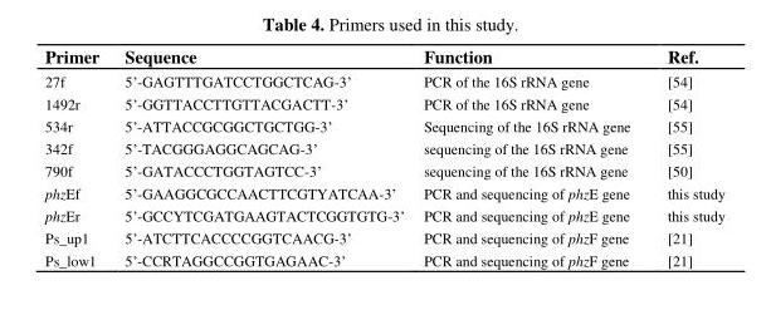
<table><thead><tr><td>Primer</td><td>Sequence</td><td>Function</td><td>Ref.</td></tr></thead><tbody><tr><td>27f</td><td>5‘-GAGTTTGATCCTGGCTCAG-3‘</td><td>PCR of the 16S rRNA gene</td><td>[54]</td></tr><tr><td>1492r</td><td>5‘-GGTTACCTTGTTACGACTT-3‘</td><td>PCR of the 16S rRNA gene</td><td>[54]</td></tr><tr><td>534r</td><td>5‘-ATTACCGCGGCTGCTGG-3‘</td><td>Sequencing of the 16S rRNA gene</td><td>[55]</td></tr><tr><td>342f</td><td>5‘-TACGGGAGGCAGCAG-3‘</td><td>sequencing of the 16S rRNA gene</td><td>[55]</td></tr><tr><td>790f</td><td>5‘-GATACCCTGGTAGTCC-3‘</td><td>sequencing of the 16S rRNA gene</td><td>[50]</td></tr><tr><td>phzEf</td><td>5‘-GAAGGCGCCAACTTCGTYATCAA-3‘</td><td>PCR and sequencing of phzE gene</td><td>this study</td></tr><tr><td>phzEr</td><td>5‘-GCCYTCGATGAAGTACTCGGTGTG-3‘</td><td>PCR and sequencing of phzE gene</td><td>this study</td></tr><tr><td>Ps_up1</td><td>5‘-ATCTTCACCCCGGTCAACG-3‘</td><td>PCR and sequencing of phzF gene</td><td>[21]</td></tr><tr><td>Ps_low1</td><td>5‘-CCRTAGGCCGGTGAGAAC-3‘</td><td>PCR and sequencing of phzF gene</td><td>[21]</td></tr></tbody></table>